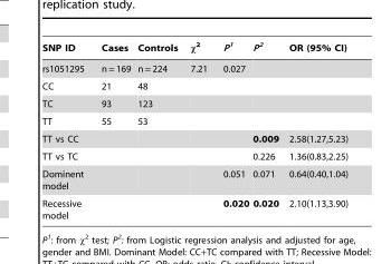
<table><thead><tr><td>SNP ID</td><td>Cases</td><td>Controls</td><td>χ<sup>2</sup></td><td>P<sup>1</sup></td><td>P<sup>2</sup></td><td>OR (95% CI)</td></tr></thead><tbody><tr><td>rs1051295</td><td>n = 169</td><td>n = 224</td><td>7.21</td><td>0.027</td><td></td><td></td></tr><tr><td>CC</td><td>21</td><td>48</td><td></td><td></td><td></td><td></td></tr><tr><td>TC</td><td>93</td><td>123</td><td></td><td></td><td></td><td></td></tr><tr><td>TT</td><td>55</td><td>53</td><td></td><td></td><td></td><td></td></tr><tr><td>TT vs CC</td><td></td><td></td><td></td><td></td><td>0.009</td><td>2.58(1.27,5.23)</td></tr><tr><td>TT vs TC</td><td></td><td></td><td></td><td></td><td>0.226</td><td>1.36(0.83,2.25)</td></tr><tr><td>Dominent model</td><td></td><td></td><td></td><td>0.051</td><td>0.071</td><td>0.64(0.40,1.04)</td></tr><tr><td>Recessive model</td><td></td><td></td><td></td><td>0.020</td><td>0.020</td><td>2.10(1.13,3.90)</td></tr></tbody></table>